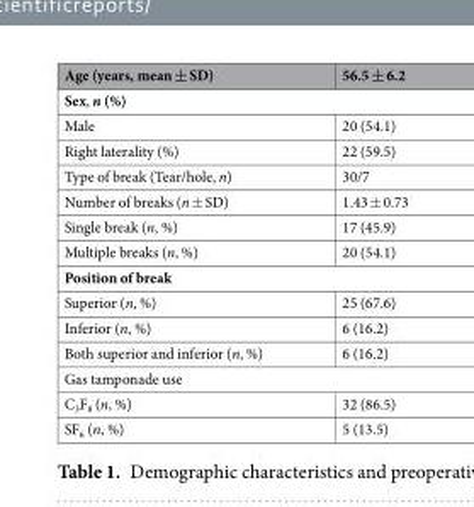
<table><thead><tr><td>Age (years, mean ± SD)</td><td>56.5 ± 6.2</td></tr></thead><tbody><tr><td colspan="2">Sex, n (%)</td></tr><tr><td>Male</td><td>20 (54.1)</td></tr><tr><td>Right laterality (%)</td><td>22 (59.5)</td></tr><tr><td>Type of break (Tear/hole, n)</td><td>30/7</td></tr><tr><td>Number of breaks (n ± SD)</td><td>1.43 ± 0.73</td></tr><tr><td>Single break (n, %)</td><td>17 (45.9)</td></tr><tr><td>Multiple breaks (n, %)</td><td>20 (54.1)</td></tr><tr><td colspan="2">Position of break</td></tr><tr><td>Superior (n, %)</td><td>25 (67.6)</td></tr><tr><td>Inferior (n, %)</td><td>6 (16.2)</td></tr><tr><td>Both superior and inferior (n, %)</td><td>6 (16.2)</td></tr><tr><td colspan="2">Gas tamponade use</td></tr><tr><td>C<sub>3</sub>F<sub>8</sub> (n, %)</td><td>32 (86.5)</td></tr><tr><td>SF<sub>6</sub> (n, %)</td><td>5 (13.5)</td></tr></tbody></table>